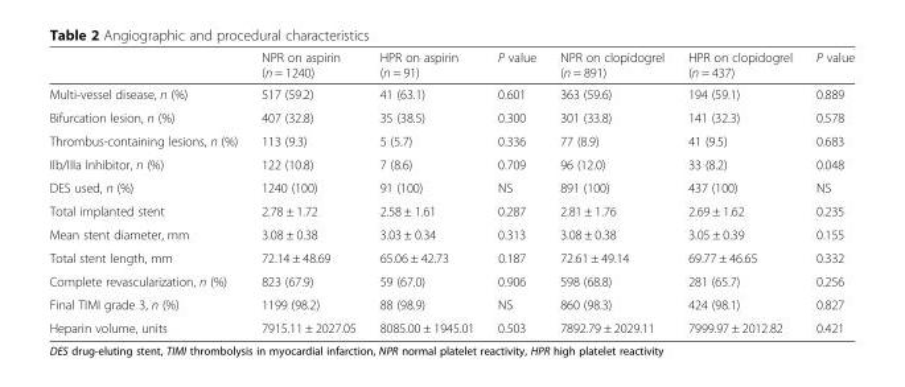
<table><thead><tr><td></td><td>NPR on aspirin (n = 1240)</td><td>HPR on aspirin (n = 91)</td><td>P value</td><td>NPR on clopidogrel (n = 891)</td><td>HPR on clopidogrel (n = 437)</td><td>P value</td></tr></thead><tbody><tr><td>Multi-vessel disease, n (%)</td><td>517 (59.2)</td><td>41 (63.1)</td><td>0.601</td><td>363 (59.6)</td><td>194 (59.1)</td><td>0.889</td></tr><tr><td>Bifurcation lesion, n (%)</td><td>407 (32.8)</td><td>35 (38.5)</td><td>0.300</td><td>301 (33.8)</td><td>141 (32.3)</td><td>0.578</td></tr><tr><td>Thrombus-containing lesions, n (%)</td><td>113 (9.3)</td><td>5 (5.7)</td><td>0.336</td><td>77 (8.9)</td><td>41 (9.5)</td><td>0.683</td></tr><tr><td>IIb/IIIa Inhibitor, n (%)</td><td>122 (10.8)</td><td>7 (8.6)</td><td>0.709</td><td>96 (12.0)</td><td>33 (8.2)</td><td>0.048</td></tr><tr><td>DES used, n (%)</td><td>1240 (100)</td><td>91 (100)</td><td>NS</td><td>891 (100)</td><td>437 (100)</td><td>NS</td></tr><tr><td>Total implanted stent</td><td>2.78 ± 1.72</td><td>2.58 ± 1.61</td><td>0.287</td><td>2.81 ± 1.76</td><td>2.69 ± 1.62</td><td>0.235</td></tr><tr><td>Mean stent diameter, mm</td><td>3.08 ± 0.38</td><td>3.03 ± 0.34</td><td>0.313</td><td>3.08 ± 0.38</td><td>3.05 ± 0.39</td><td>0.155</td></tr><tr><td>Total stent length, mm</td><td>72.14 ± 48.69</td><td>65.06 ± 42.73</td><td>0.187</td><td>72.61 ± 49.14</td><td>69.77 ± 46.65</td><td>0.332</td></tr><tr><td>Complete revascularization, n (%)</td><td>823 (67.9)</td><td>59 (67.0)</td><td>0.906</td><td>598 (68.8)</td><td>281 (65.7)</td><td>0.256</td></tr><tr><td>Final TIMI grade 3, n (%)</td><td>1199 (98.2)</td><td>88 (98.9)</td><td>NS</td><td>860 (98.3)</td><td>424 (98.1)</td><td>0.827</td></tr><tr><td>Heparin volume, units</td><td>7915.11 ± 2027.05</td><td>8085.00 ± 1945.01</td><td>0.503</td><td>7892.79 ± 2029.11</td><td>7999.97 ± 2012.82</td><td>0.421</td></tr></tbody></table>